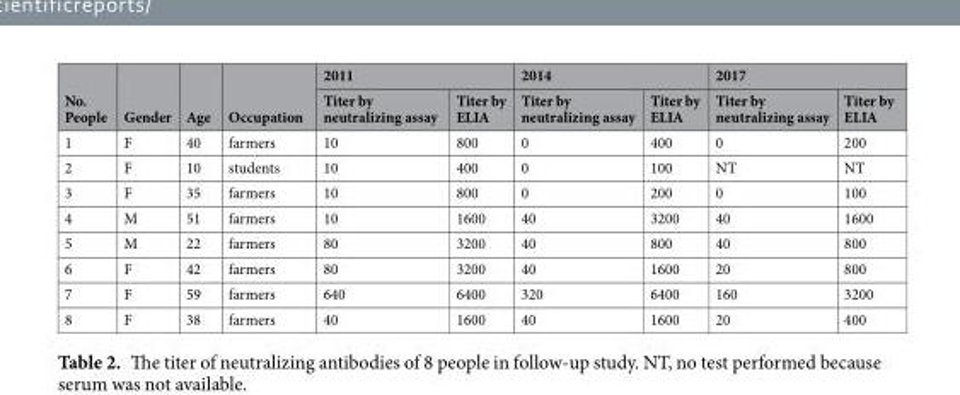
<table><thead><tr><td rowspan="2">No. People</td><td rowspan="2">Gender</td><td rowspan="2">Age</td><td rowspan="2">Occupation</td><td colspan="2">2011</td><td colspan="2">2014</td><td colspan="2">2017</td></tr><tr><td>Titer by neutralizing assay</td><td>Titer by ELIA</td><td>Titer by neutralizing assay</td><td>Titer by ELIA</td><td>Titer by neutralizing assay</td><td>Titer by ELIA</td></tr></thead><tbody><tr><td>1</td><td>F</td><td>40</td><td>farmers</td><td>10</td><td>800</td><td>0</td><td>400</td><td>0</td><td>200</td></tr><tr><td>2</td><td>F</td><td>10</td><td>students</td><td>10</td><td>400</td><td>0</td><td>100</td><td>NT</td><td>NT</td></tr><tr><td>3</td><td>F</td><td>35</td><td>farmers</td><td>10</td><td>800</td><td>0</td><td>200</td><td>0</td><td>100</td></tr><tr><td>4</td><td>M</td><td>51</td><td>farmers</td><td>10</td><td>1600</td><td>40</td><td>3200</td><td>40</td><td>1600</td></tr><tr><td>5</td><td>M</td><td>22</td><td>farmers</td><td>80</td><td>3200</td><td>40</td><td>800</td><td>40</td><td>800</td></tr><tr><td>6</td><td>F</td><td>42</td><td>farmers</td><td>80</td><td>3200</td><td>40</td><td>1600</td><td>20</td><td>800</td></tr><tr><td>7</td><td>F</td><td>59</td><td>farmers</td><td>640</td><td>6400</td><td>320</td><td>6400</td><td>160</td><td>3200</td></tr><tr><td>8</td><td>F</td><td>38</td><td>farmers</td><td>40</td><td>1600</td><td>40</td><td>1600</td><td>20</td><td>400</td></tr></tbody></table>